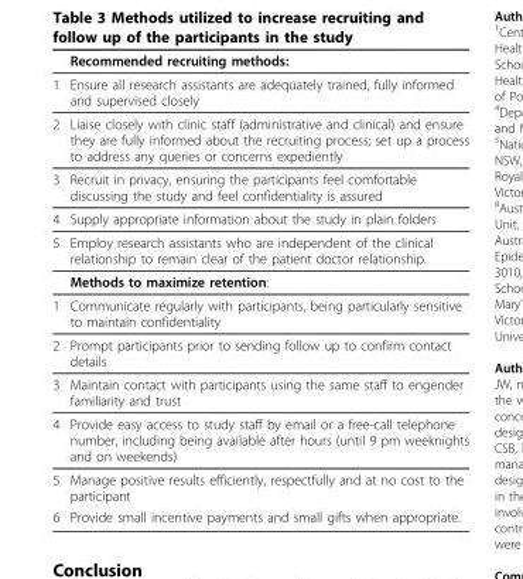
<table><thead><tr><td></td><td>Recommended recruiting methods:</td></tr></thead><tbody><tr><td>1</td><td>Ensure all research assistants are adequately trained, fully informed and supervised closely</td></tr><tr><td>2</td><td>Liaise closely with clinic staff (administrative and clinical) and ensure they are fully informed about the recruiting process; set up a process to address any queries or concerns expediently</td></tr><tr><td>3</td><td>Recruit in privacy, ensuring the participants feel comfortable discussing the study and feel confidentiality is assured</td></tr><tr><td>4</td><td>Supply appropriate information about the study in plain folders</td></tr><tr><td rowspan="2">5</td><td>Employ research assistants who are independent of the clinical relationship to remain clear of the patient doctor relationship.</td></tr><tr><td>Methods to maximize retention:</td></tr><tr><td>1</td><td>Communicate regularly with participants, being particularly sensitive to maintain confidentiality</td></tr><tr><td>2</td><td>Prompt participants prior to sending follow up to confirm contact details</td></tr><tr><td>3</td><td>Maintain contact with participants using the same staff to engender familiarity and trust</td></tr><tr><td>4</td><td>Provide easy access to study staff by email or a free-call telephone number, including being available after hours (until 9 pm weeknights and on weekends)</td></tr><tr><td>5</td><td>Manage positive results efficiently, respectfully and at no cost to the participant</td></tr><tr><td>6</td><td>Provide small incentive payments and small gifts when appropriate.</td></tr></tbody></table>